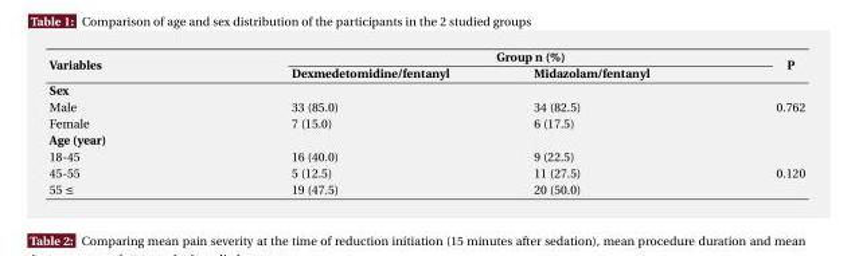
<table><thead><tr><td rowspan="2">Variables</td><td colspan="2">Group n (%)</td><td rowspan="2">P</td></tr><tr><td>Dexmedetomidine/fentanyl</td><td>Midazolam/fentanyl</td></tr></thead><tbody><tr><td colspan="4">Sex</td></tr><tr><td>Male</td><td>33 (85.0)</td><td>34 (82.5)</td><td rowspan="2">0.762</td></tr><tr><td>Female</td><td>7 (15.0)</td><td>6 (17.5)</td></tr><tr><td colspan="4">Age (year)</td></tr><tr><td>18-45</td><td>16 (40.0)</td><td>9 (22.5)</td><td rowspan="3">0.120</td></tr><tr><td>45-55</td><td>5 (12.5)</td><td>11 (27.5)</td></tr><tr><td>55 ≤</td><td>19 (47.5)</td><td>20 (50.0)</td></tr></tbody></table>